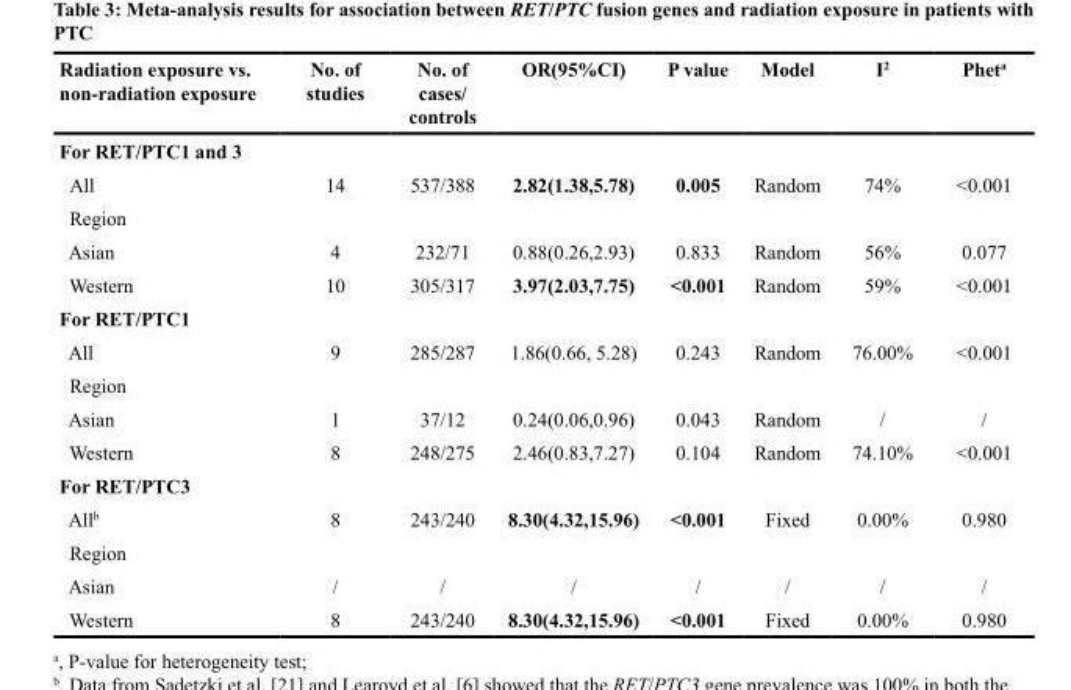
<table><thead><tr><td>Radiation exposure vs. non-radiation exposure</td><td>No. of studies</td><td>No. of cases/ controls</td><td>OR(95%CI)</td><td>P value</td><td>Model</td><td>I<sup>2</sup></td><td>Phet<sup>a</sup></td></tr></thead><tbody><tr><td colspan="8">For RET/PTC1 and 3</td></tr><tr><td>All</td><td>14</td><td>537/388</td><td>2.82(1.38,5.78)</td><td>0.005</td><td>Random</td><td>74%</td><td>&lt;0.001</td></tr><tr><td colspan="8">Region</td></tr><tr><td>Asian</td><td>4</td><td>232/71</td><td>0.88(0.26,2.93)</td><td>0.833</td><td>Random</td><td>56%</td><td>0.077</td></tr><tr><td>Western</td><td>10</td><td>305/317</td><td>3.97(2.03,7.75)</td><td>&lt;0.001</td><td>Random</td><td>59%</td><td>&lt;0.001</td></tr><tr><td colspan="8">For RET/PTC1</td></tr><tr><td>All</td><td>9</td><td>285/287</td><td>1.86(0.66, 5.28)</td><td>0.243</td><td>Random</td><td>76.00%</td><td>&lt;0.001</td></tr><tr><td colspan="8">Region</td></tr><tr><td>Asian</td><td>1</td><td>37/12</td><td>0.24(0.06,0.96)</td><td>0.043</td><td>Random</td><td>/</td><td>/</td></tr><tr><td>Western</td><td>8</td><td>248/275</td><td>2.46(0.83,7.27)</td><td>0.104</td><td>Random</td><td>74.10%</td><td>&lt;0.001</td></tr><tr><td colspan="8">For RET/PTC3</td></tr><tr><td>All<sup>b</sup></td><td>8</td><td>243/240</td><td>8.30(4.32,15.96)</td><td>&lt;0.001</td><td>Fixed</td><td>0.00%</td><td>0.980</td></tr><tr><td colspan="8">Region</td></tr><tr><td>Asian</td><td>/</td><td>/</td><td>/</td><td>/</td><td>/</td><td>/</td><td>/</td></tr><tr><td>Western</td><td>8</td><td>243/240</td><td>8.30(4.32,15.96)</td><td>&lt;0.001</td><td>Fixed</td><td>0.00%</td><td>0.980</td></tr></tbody></table>